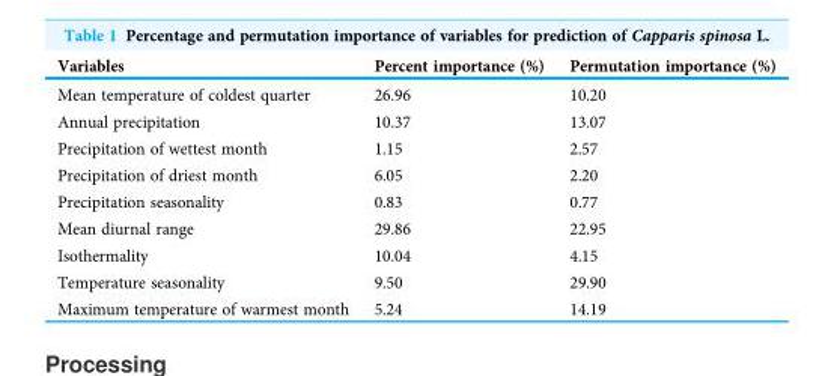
<table><thead><tr><td>Variables</td><td>Percent importance (%)</td><td>Permutation importance (%)</td></tr></thead><tbody><tr><td>Mean temperature of coldest quarter</td><td>26.96</td><td>10.20</td></tr><tr><td>Annual precipitation</td><td>10.37</td><td>13.07</td></tr><tr><td>Precipitation of wettest month</td><td>1.15</td><td>2.57</td></tr><tr><td>Precipitation of driest month</td><td>6.05</td><td>2.20</td></tr><tr><td>Precipitation seasonality</td><td>0.83</td><td>0.77</td></tr><tr><td>Mean diurnal range</td><td>29.86</td><td>22.95</td></tr><tr><td>Isothermality</td><td>10.04</td><td>4.15</td></tr><tr><td>Temperature seasonality</td><td>9.50</td><td>29.90</td></tr><tr><td>Maximum temperature of warmest month</td><td>5.24</td><td>14.19</td></tr></tbody></table>